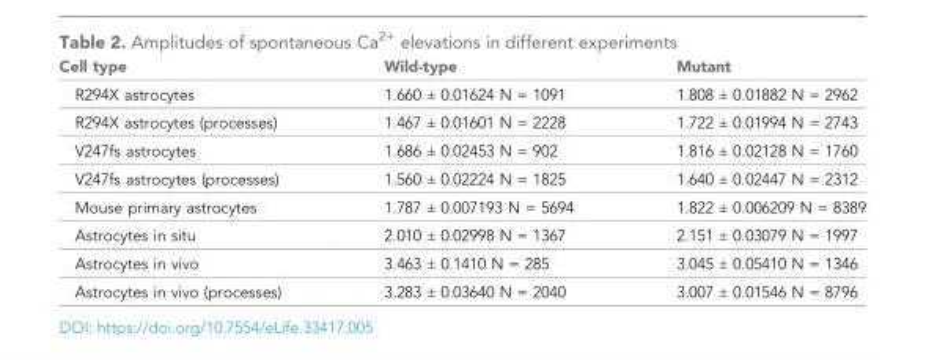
<table><thead><tr><td>Cell type</td><td>Wild-type</td><td>Mutant</td></tr></thead><tbody><tr><td>R294X astrocytes</td><td>1.660 ± 0.01624 N = 1091</td><td>1.808 ± 0.01882 N = 2962</td></tr><tr><td>R294X astrocytes (processes)</td><td>1.467 ± 0.01601 N = 2228</td><td>1.722 ± 0.01994 N = 2743</td></tr><tr><td>V247fs astrocytes</td><td>1.686 ± 0.02453 N = 902</td><td>1.816 ± 0.02128 N = 1760</td></tr><tr><td>V247fs astrocytes (processes)</td><td>1.560 ± 0.02224 N = 1825</td><td>1.640 ± 0.02447 N = 2312</td></tr><tr><td>Mouse primary astrocytes</td><td>1.787 ± 0.007193 N = 5694</td><td>1.822 ± 0.006209 N = 8389</td></tr><tr><td>Astrocytes in situ</td><td>2.010 ± 0.02998 N = 1367</td><td>2.151 ± 0.03079 N = 1997</td></tr><tr><td>Astrocytes in vivo</td><td>3.463 ± 0.1410 N = 285</td><td>3.045 ± 0.05410 N = 1346</td></tr><tr><td>Astrocytes in vivo (processes)</td><td>3.283 ± 0.03640 N = 2040</td><td>3.007 ± 0.01546 N = 8796</td></tr></tbody></table>